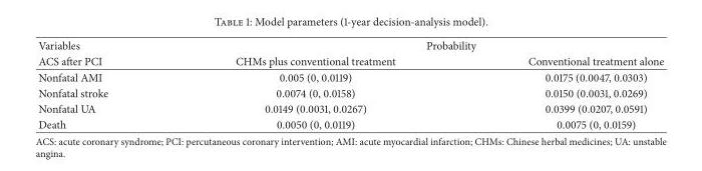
<table><thead><tr><td rowspan="2">Variables ACS after PCI</td><td colspan="2">Probability</td></tr><tr><td>CHMs plus conventional treatment</td><td>Conventional treatment alone</td></tr></thead><tbody><tr><td>Nonfatal AMI</td><td>0.005 (0, 0.0119)</td><td>0.0175 (0.0047, 0.0303)</td></tr><tr><td>Nonfatal stroke</td><td>0.0074 (0, 0.0158)</td><td>0.0150 (0.0031, 0.0269)</td></tr><tr><td>Nonfatal UA</td><td>0.0149 (0.0031, 0.0267)</td><td>0.0399 (0.0207, 0.0591)</td></tr><tr><td>Death</td><td>0.0050 (0, 0.0119)</td><td>0.0075 (0, 0.0159)</td></tr></tbody></table>